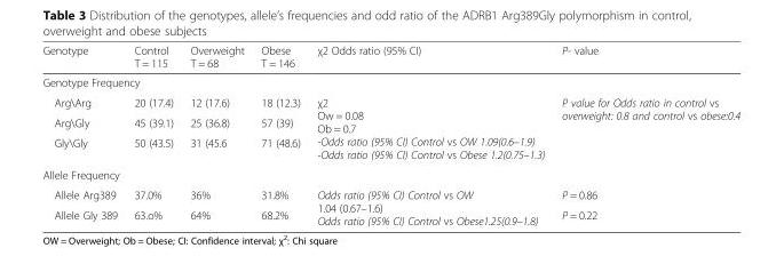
<table><thead><tr><td>Genotype</td><td>Control T = 115</td><td>Overweight T = 68</td><td>Obese T = 146</td><td>χ2 Odds ratio (95% CI)</td><td>P- value</td></tr></thead><tbody><tr><td colspan="6">Genotype Frequency</td></tr><tr><td>Arg\Arg</td><td>20 (17.4)</td><td>12 (17.6)</td><td>18 (12.3)</td><td rowspan="3">χ2 Ow = 0.08 Ob = 0.7 -Odds ratio (95% CI) Control vs OW 1.09(0.6–1.9) -Odds ratio (95% CI) Control vs Obese 1.2(0.75–1.3)</td><td rowspan="3">P value for Odds ratio in control vs overweight: 0.8 and control vs obese:0.4</td></tr><tr><td>Arg\Gly</td><td>45 (39.1)</td><td>25 (36.8)</td><td>57 (39)</td></tr><tr><td>Gly\Gly</td><td>50 (43.5)</td><td>31 (45.6</td><td>71 (48.6)</td></tr><tr><td colspan="6">Allele Frequency</td></tr><tr><td>Allele Arg389</td><td>37.0%</td><td>36%</td><td>31.8%</td><td rowspan="2">Odds ratio (95% CI) Control vs OW 1.04 (0.67–1.6) Odds ratio (95% CI) Control vs Obese1.25(0.9–1.8)</td><td>P = 0.86</td></tr><tr><td>Allele Gly 389</td><td>63.o%</td><td>64%</td><td>68.2%</td><td>P = 0.22</td></tr></tbody></table>